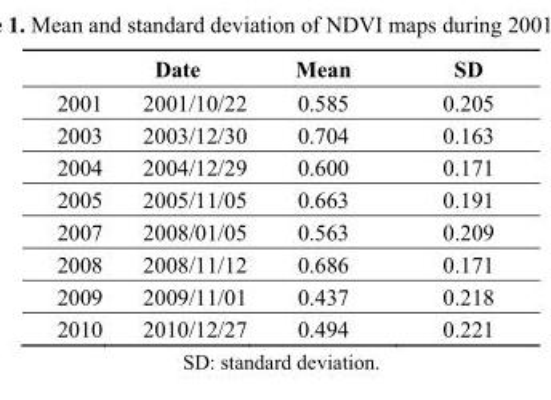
<table><thead><tr><td></td><td>Date</td><td>Mean</td><td>SD</td></tr></thead><tbody><tr><td>2001</td><td>2001/10/22</td><td>0.585</td><td>0.205</td></tr><tr><td>2003</td><td>2003/12/30</td><td>0.704</td><td>0.163</td></tr><tr><td>2004</td><td>2004/12/29</td><td>0.600</td><td>0.171</td></tr><tr><td>2005</td><td>2005/11/05</td><td>0.663</td><td>0.191</td></tr><tr><td>2007</td><td>2008/01/05</td><td>0.563</td><td>0.209</td></tr><tr><td>2008</td><td>2008/11/12</td><td>0.686</td><td>0.171</td></tr><tr><td>2009</td><td>2009/11/01</td><td>0.437</td><td>0.218</td></tr><tr><td>2010</td><td>2010/12/27</td><td>0.494</td><td>0.221</td></tr></tbody></table>